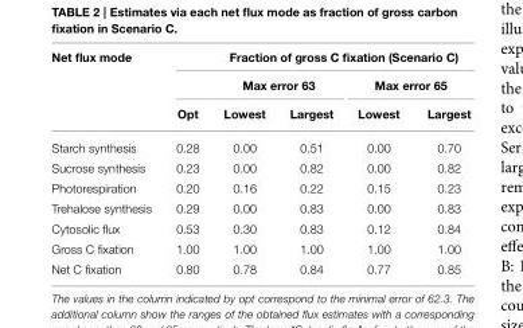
<table><thead><tr><td rowspan="3">Net flux mode</td><td colspan="5">Fraction of gross C fixation (Scenario C)</td></tr><tr><td colspan="3">Max error 63</td><td colspan="2">Max error 65</td></tr><tr><td>Opt</td><td>Lowest</td><td>Largest</td><td>Lowest</td><td>Largest</td></tr></thead><tbody><tr><td>Starch synthesis</td><td>0.28</td><td>0.00</td><td>0.51</td><td>0.00</td><td>0.70</td></tr><tr><td>Sucrose synthesis</td><td>0.23</td><td>0.00</td><td>0.82</td><td>0.00</td><td>0.82</td></tr><tr><td>Photorespiration</td><td>0.20</td><td>0.16</td><td>0.22</td><td>0.15</td><td>0.23</td></tr><tr><td>Trehalose synthesis</td><td>0.29</td><td>0.00</td><td>0.83</td><td>0.00</td><td>0.83</td></tr><tr><td>Cytosolic flux</td><td>0.53</td><td>0.30</td><td>0.83</td><td>0.12</td><td>0.84</td></tr><tr><td>Gross C fixation</td><td>1.00</td><td>1.00</td><td>1.00</td><td>1.00</td><td>1.00</td></tr><tr><td>Net C fixation</td><td>0.80</td><td>0.78</td><td>0.84</td><td>0.77</td><td>0.85</td></tr></tbody></table>